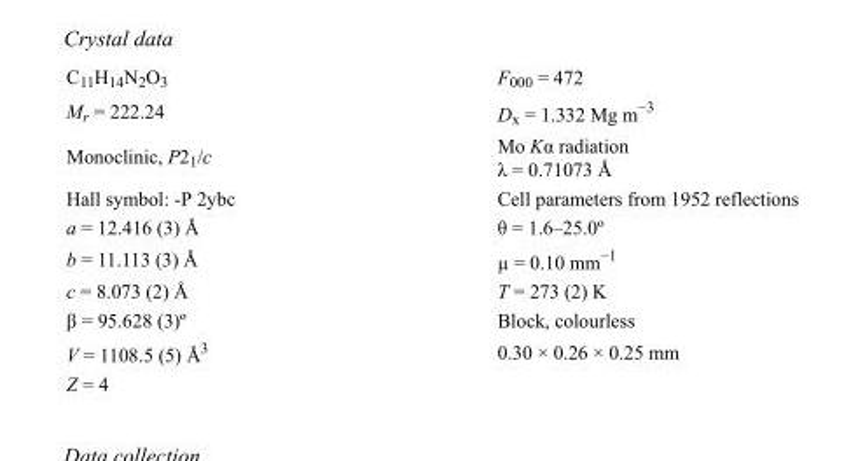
<table><tbody><tr><td>C<sub>11</sub>H<sub>14</sub>N<sub>2</sub>O<sub>3</sub></td><td>F<sub>000</sub> = 472</td></tr><tr><td>M<sub>r</sub> = 222.24</td><td>D<sub>x</sub> = 1.332 Mg m<sup>−3</sup></td></tr><tr><td>Monoclinic, P2<sub>1</sub>/c</td><td>Mo Kα radiation λ = 0.71073 Å</td></tr><tr><td>Hall symbol: -P 2ybc</td><td>Cell parameters from 1952 reflections</td></tr><tr><td>a = 12.416 (3) Å</td><td>θ = 1.6–25.0º</td></tr><tr><td>b = 11.113 (3) Å</td><td>µ = 0.10 mm<sup>−1</sup></td></tr><tr><td>c = 8.073 (2) Å</td><td>T = 273 (2) K</td></tr><tr><td>β = 95.628 (3)º</td><td>Block, colourless</td></tr><tr><td>V = 1108.5 (5) Å<sup>3</sup></td><td>0.30 × 0.26 × 0.25 mm</td></tr><tr><td>Z = 4</td><td></td></tr></tbody></table>